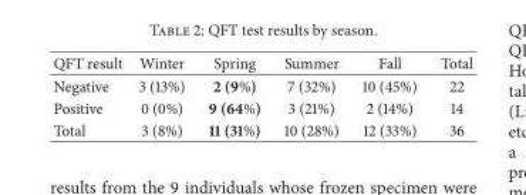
<table><thead><tr><td>QFT result</td><td>Winter</td><td>Spring</td><td>Summer</td><td>Fall</td><td>Total</td></tr></thead><tbody><tr><td>Negative</td><td>3 (13%)</td><td>2 (9%)</td><td>7 (32%)</td><td>10 (45%)</td><td>22</td></tr><tr><td>Positive</td><td>0 (0%)</td><td>9 (64%)</td><td>3 (21%)</td><td>2 (14%)</td><td>14</td></tr><tr><td>Total</td><td>3 (8%)</td><td>11 (31%)</td><td>10 (28%)</td><td>12 (33%)</td><td>36</td></tr></tbody></table>